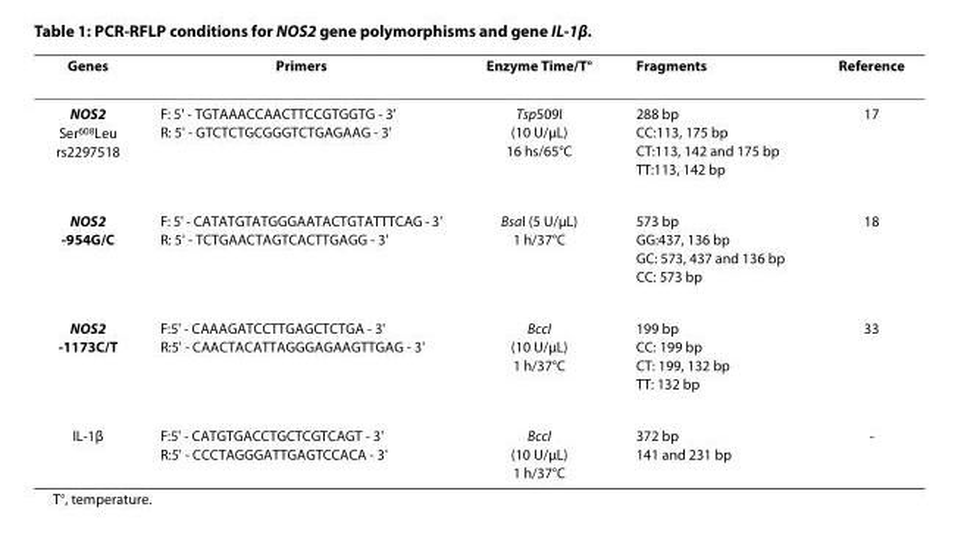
<table><thead><tr><td>Genes</td><td>Primers</td><td>Enzyme Time/T°</td><td>Fragments</td><td>Reference</td></tr></thead><tbody><tr><td>NOS2 Ser<sup>608</sup>Leu rs2297518</td><td>F: 5&#x27; - TGTAAACCAACTTCCGTGGTG - 3&#x27; R: 5&#x27; - GTCTCTGCGGGTCTGAGAAG - 3&#x27;</td><td>Tsp509I (10 U/μL) 16 hs/65°C</td><td>288 bp CC:113, 175 bp CT:113, 142 and 175 bp TT:113, 142 bp</td><td>17</td></tr><tr><td>NOS2 -954G/C</td><td>F: 5&#x27; - CATATGTATGGGAATACTGTATTTCAG - 3&#x27; R: 5&#x27; - TCTGAACTAGTCACTTGAGG - 3&#x27;</td><td>BsaI (5 U/μL) 1 h/37°C</td><td>573 bp GG:437, 136 bp GC: 573, 437 and 136 bp CC: 573 bp</td><td>18</td></tr><tr><td>NOS2 -1173C/T</td><td>F:5&#x27; - CAAAGATCCTTGAGCTCTGA - 3&#x27; R:5&#x27; - CAACTACATTAGGGAGAAGTTGAG - 3&#x27;</td><td>BccI (10 U/μL) 1 h/37°C</td><td>199 bp CC: 199 bp CT: 199, 132 bp TT: 132 bp</td><td>33</td></tr><tr><td>IL-1β</td><td>F:5&#x27; - CATGTGACCTGCTCGTCAGT - 3&#x27; R:5&#x27; - CCCTAGGGATTGAGTCCACA - 3&#x27;</td><td>BccI (10 U/μL) 1 h/37°C</td><td>372 bp 141 and 231 bp</td><td>-</td></tr></tbody></table>